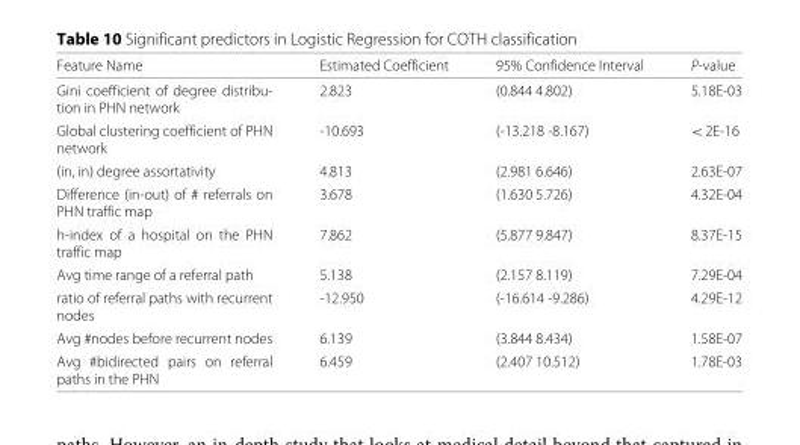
<table><thead><tr><td>Feature Name</td><td>Estimated Coefficient</td><td>95% Confidence Interval</td><td>P-value</td></tr></thead><tbody><tr><td>Gini coefficient of degree distribu- tion in PHN network</td><td>2.823</td><td>(0.844 4.802)</td><td>5.18E-03</td></tr><tr><td>Global clustering coefficient of PHN network</td><td>-10.693</td><td>(-13.218 -8.167)</td><td>&lt; 2E-16</td></tr><tr><td>(in, in) degree assortativity</td><td>4.813</td><td>(2.981 6.646)</td><td>2.63E-07</td></tr><tr><td>Difference (in-out) of # referrals on PHN traffic map</td><td>3.678</td><td>(1.630 5.726)</td><td>4.32E-04</td></tr><tr><td>h-index of a hospital on the PHN traffic map</td><td>7.862</td><td>(5.877 9.847)</td><td>8.37E-15</td></tr><tr><td>Avg time range of a referral path</td><td>5.138</td><td>(2.157 8.119)</td><td>7.29E-04</td></tr><tr><td>ratio of referral paths with recurrent nodes</td><td>-12.950</td><td>(-16.614 -9.286)</td><td>4.29E-12</td></tr><tr><td>Avg #nodes before recurrent nodes</td><td>6.139</td><td>(3.844 8.434)</td><td>1.58E-07</td></tr><tr><td>Avg #bidirected pairs on referral paths in the PHN</td><td>6.459</td><td>(2.407 10.512)</td><td>1.78E-03</td></tr></tbody></table>